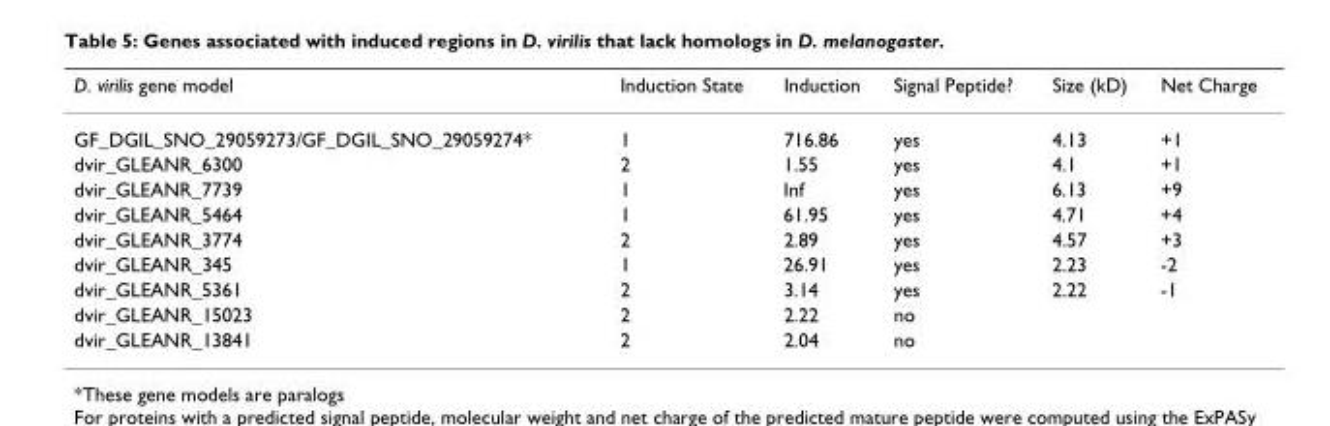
<table><thead><tr><td>D. virilis gene model</td><td>Induction State</td><td>Induction</td><td>Signal Peptide?</td><td>Size (kD)</td><td>Net Charge</td></tr></thead><tbody><tr><td>GF_DGIL_SNO_29059273/GF_DGIL_SNO_29059274*</td><td>1</td><td>716.86</td><td>yes</td><td>4.13</td><td>+1</td></tr><tr><td>dvir_GLEANR_6300</td><td>2</td><td>1.55</td><td>yes</td><td>4.1</td><td>+1</td></tr><tr><td>dvir_GLEANR_7739</td><td>1</td><td>Inf</td><td>yes</td><td>6.13</td><td>+9</td></tr><tr><td>dvir_GLEANR_5464</td><td>1</td><td>61.95</td><td>yes</td><td>4.71</td><td>+4</td></tr><tr><td>dvir_GLEANR_3774</td><td>2</td><td>2.89</td><td>yes</td><td>4.57</td><td>+3</td></tr><tr><td>dvir_GLEANR_345</td><td>1</td><td>26.91</td><td>yes</td><td>2.23</td><td>-2</td></tr><tr><td>dvir_GLEANR_5361</td><td>2</td><td>3.14</td><td>yes</td><td>2.22</td><td>-1</td></tr><tr><td>dvir_GLEANR_15023</td><td>2</td><td>2.22</td><td>no</td><td></td><td></td></tr><tr><td>dvir_GLEANR_13841</td><td>2</td><td>2.04</td><td>no</td><td></td><td></td></tr></tbody></table>